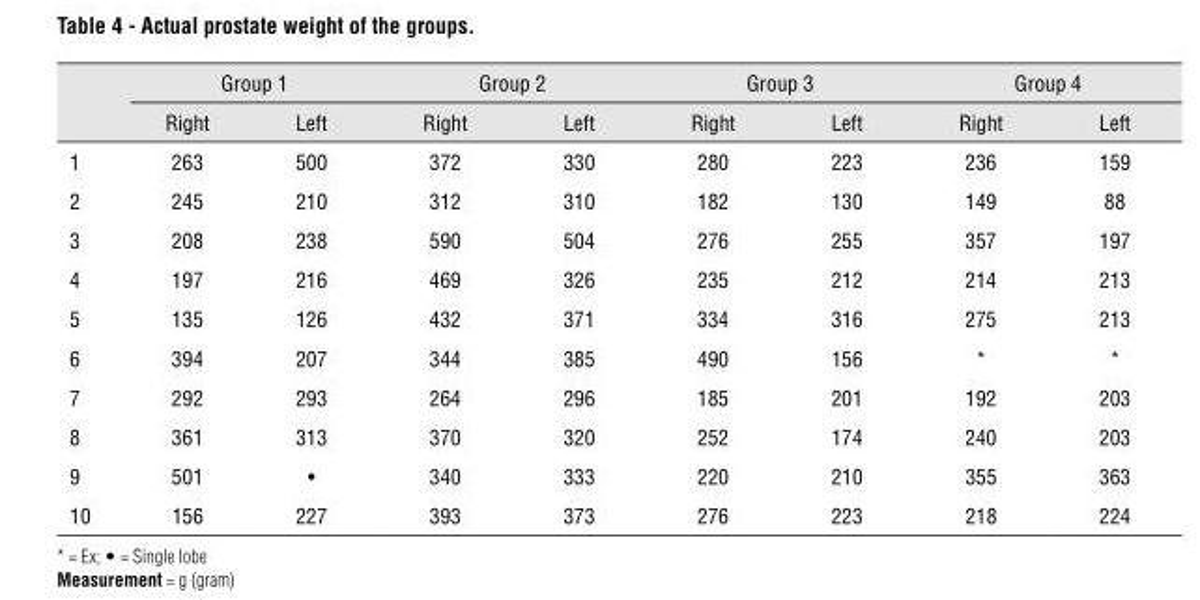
<table><thead><tr><td rowspan="2"></td><td colspan="2">Group 1</td><td colspan="2">Group 2</td><td colspan="2">Group 3</td><td colspan="2">Group 4</td></tr><tr><td>Right</td><td>Left</td><td>Right</td><td>Left</td><td>Right</td><td>Left</td><td>Right</td><td>Left</td></tr></thead><tbody><tr><td>1</td><td>263</td><td>500</td><td>372</td><td>330</td><td>280</td><td>223</td><td>236</td><td>159</td></tr><tr><td>2</td><td>245</td><td>210</td><td>312</td><td>310</td><td>182</td><td>130</td><td>149</td><td>88</td></tr><tr><td>3</td><td>208</td><td>238</td><td>590</td><td>504</td><td>276</td><td>255</td><td>357</td><td>197</td></tr><tr><td>4</td><td>197</td><td>216</td><td>469</td><td>326</td><td>235</td><td>212</td><td>214</td><td>213</td></tr><tr><td>5</td><td>135</td><td>126</td><td>432</td><td>371</td><td>334</td><td>316</td><td>275</td><td>213</td></tr><tr><td>6</td><td>394</td><td>207</td><td>344</td><td>385</td><td>490</td><td>156</td><td>*</td><td>*</td></tr><tr><td>7</td><td>292</td><td>293</td><td>264</td><td>296</td><td>185</td><td>201</td><td>192</td><td>203</td></tr><tr><td>8</td><td>361</td><td>313</td><td>370</td><td>320</td><td>252</td><td>174</td><td>240</td><td>203</td></tr><tr><td>9</td><td>501</td><td>•</td><td>340</td><td>333</td><td>220</td><td>210</td><td>355</td><td>363</td></tr><tr><td>10</td><td>156</td><td>227</td><td>393</td><td>373</td><td>276</td><td>223</td><td>218</td><td>224</td></tr></tbody></table>